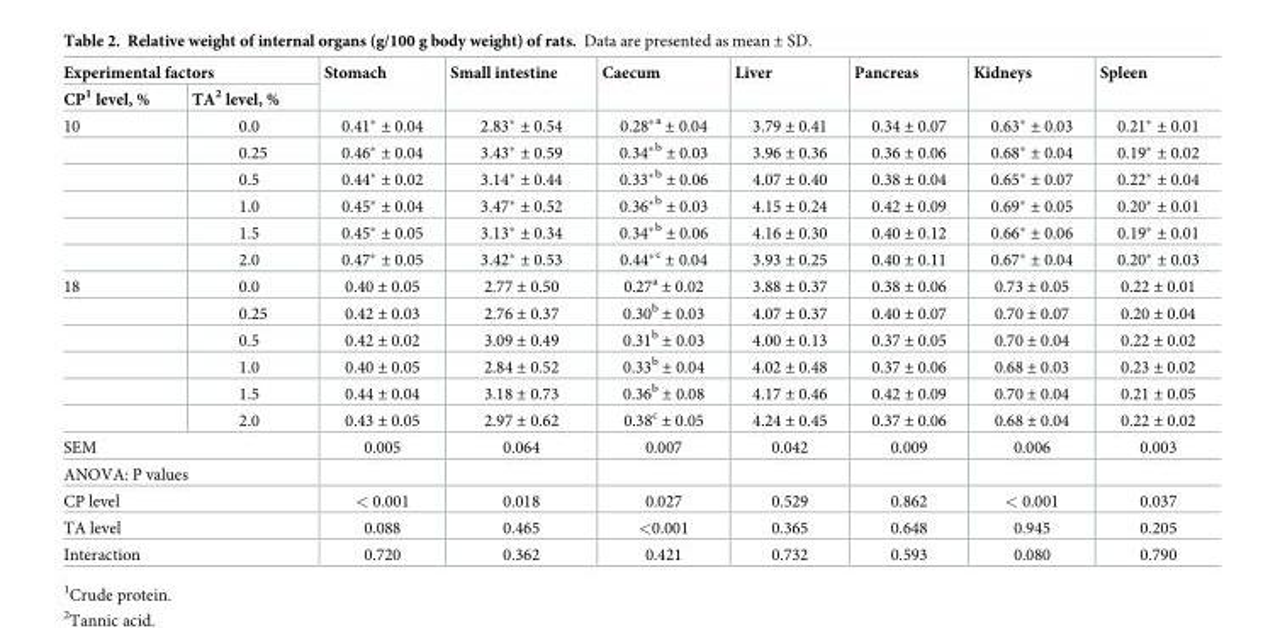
<table><thead><tr><td colspan="2">Experimental factors</td><td rowspan="2">Stomach</td><td rowspan="2">Small intestine</td><td rowspan="2">Caecum</td><td rowspan="2">Liver</td><td rowspan="2">Pancreas</td><td rowspan="2">Kidneys</td><td rowspan="2">Spleen</td></tr><tr><td>CP<sup>1</sup> level, %</td><td>TA<sup>2</sup> level, %</td></tr></thead><tbody><tr><td rowspan="6">10</td><td>0.0</td><td>0.41* ± 0.04</td><td>2.83* ± 0.54</td><td>0.28*<sup>a</sup> ± 0.04</td><td>3.79 ± 0.41</td><td>0.34 ± 0.07</td><td>0.63* ± 0.03</td><td>0.21* ± 0.01</td></tr><tr><td>0.25</td><td>0.46* ± 0.04</td><td>3.43* ± 0.59</td><td>0.34*<sup>b</sup> ± 0.03</td><td>3.96 ± 0.36</td><td>0.36 ± 0.06</td><td>0.68* ± 0.04</td><td>0.19* ± 0.02</td></tr><tr><td>0.5</td><td>0.44* ± 0.02</td><td>3.14* ± 0.44</td><td>0.33*<sup>b</sup> ± 0.06</td><td>4.07 ± 0.40</td><td>0.38 ± 0.04</td><td>0.65* ± 0.07</td><td>0.22* ± 0.04</td></tr><tr><td>1.0</td><td>0.45* ± 0.04</td><td>3.47* ± 0.52</td><td>0.36*<sup>b</sup> ± 0.03</td><td>4.15 ± 0.24</td><td>0.42 ± 0.09</td><td>0.69* ± 0.05</td><td>0.20* ± 0.01</td></tr><tr><td>1.5</td><td>0.45* ± 0.05</td><td>3.13* ± 0.34</td><td>0.34*<sup>b</sup> ± 0.06</td><td>4.16 ± 0.30</td><td>0.40 ± 0.12</td><td>0.66* ± 0.06</td><td>0.19* ± 0.01</td></tr><tr><td>2.0</td><td>0.47* ± 0.05</td><td>3.42* ± 0.53</td><td>0.44*<sup>c</sup> ± 0.04</td><td>3.93 ± 0.25</td><td>0.40 ± 0.11</td><td>0.67* ± 0.04</td><td>0.20* ± 0.03</td></tr><tr><td rowspan="6">18</td><td>0.0</td><td>0.40 ± 0.05</td><td>2.77 ± 0.50</td><td>0.27<sup>a</sup> ± 0.02</td><td>3.88 ± 0.37</td><td>0.38 ± 0.06</td><td>0.73 ± 0.05</td><td>0.22 ± 0.01</td></tr><tr><td>0.25</td><td>0.42 ± 0.03</td><td>2.76 ± 0.37</td><td>0.30<sup>b</sup> ± 0.03</td><td>4.07 ± 0.37</td><td>0.40 ± 0.07</td><td>0.70 ± 0.07</td><td>0.20 ± 0.04</td></tr><tr><td>0.5</td><td>0.42 ± 0.02</td><td>3.09 ± 0.49</td><td>0.31<sup>b</sup> ± 0.03</td><td>4.00 ± 0.13</td><td>0.37 ± 0.05</td><td>0.70 ± 0.04</td><td>0.22 ± 0.02</td></tr><tr><td>1.0</td><td>0.40 ± 0.05</td><td>2.84 ± 0.52</td><td>0.33<sup>b</sup> ± 0.04</td><td>4.02 ± 0.48</td><td>0.37 ± 0.06</td><td>0.68 ± 0.03</td><td>0.23 ± 0.02</td></tr><tr><td>1.5</td><td>0.44 ± 0.04</td><td>3.18 ± 0.73</td><td>0.36<sup>b</sup> ± 0.08</td><td>4.17 ± 0.46</td><td>0.42 ± 0.09</td><td>0.70 ± 0.04</td><td>0.21 ± 0.05</td></tr><tr><td>2.0</td><td>0.43 ± 0.05</td><td>2.97 ± 0.62</td><td>0.38<sup>c</sup> ± 0.05</td><td>4.24 ± 0.45</td><td>0.37 ± 0.06</td><td>0.68 ± 0.04</td><td>0.22 ± 0.02</td></tr><tr><td colspan="2">SEM</td><td>0.005</td><td>0.064</td><td>0.007</td><td>0.042</td><td>0.009</td><td>0.006</td><td>0.003</td></tr><tr><td colspan="9">ANOVA: P values</td></tr><tr><td colspan="2">CP level</td><td>&lt; 0.001</td><td>0.018</td><td>0.027</td><td>0.529</td><td>0.862</td><td>&lt; 0.001</td><td>0.037</td></tr><tr><td colspan="2">TA level</td><td>0.088</td><td>0.465</td><td>&lt;0.001</td><td>0.365</td><td>0.648</td><td>0.945</td><td>0.205</td></tr><tr><td colspan="2">Interaction</td><td>0.720</td><td>0.362</td><td>0.421</td><td>0.732</td><td>0.593</td><td>0.080</td><td>0.790</td></tr></tbody></table>